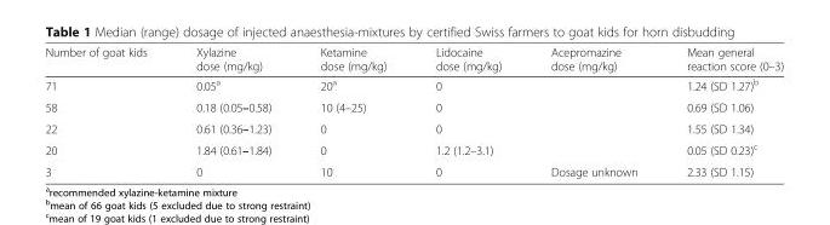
<table><thead><tr><td>Number of goat kids</td><td>Xylazine dose (mg/kg)</td><td>Ketamine dose (mg/kg)</td><td>Lidocaine dose (mg/kg)</td><td>Acepromazine dose (mg/kg)</td><td>Mean general reaction score (0–3)</td></tr></thead><tbody><tr><td>71</td><td>0.05<sup>a</sup></td><td>20<sup>a</sup></td><td>0</td><td></td><td>1.24 (SD 1.27)<sup>b</sup></td></tr><tr><td>58</td><td>0.18 (0.05–0.58)</td><td>10 (4–25)</td><td>0</td><td></td><td>0.69 (SD 1.06)</td></tr><tr><td>22</td><td>0.61 (0.36–1.23)</td><td>0</td><td>0</td><td></td><td>1.55 (SD 1.34)</td></tr><tr><td>20</td><td>1.84 (0.61–1.84)</td><td>0</td><td>1.2 (1.2–3.1)</td><td></td><td>0.05 (SD 0.23)<sup>c</sup></td></tr><tr><td>3</td><td>0</td><td>10</td><td>0</td><td>Dosage unknown</td><td>2.33 (SD 1.15)</td></tr></tbody></table>